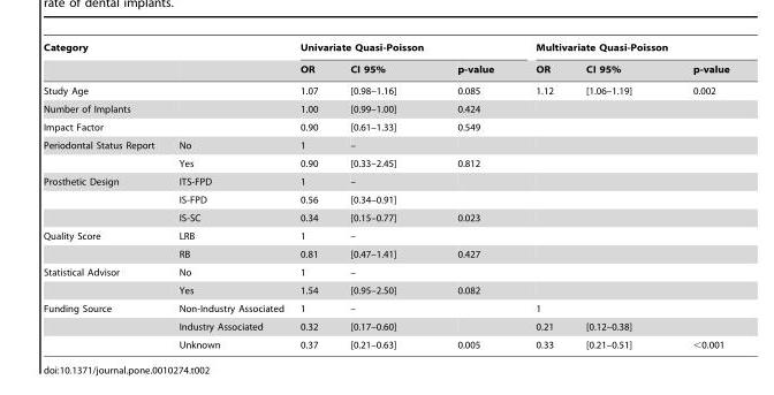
<table><thead><tr><td rowspan="2">Category</td><td rowspan="2"></td><td colspan="3">Univariate Quasi-Poisson</td><td colspan="3">Multivariate Quasi-Poisson</td></tr><tr><td>OR</td><td>CI 95%</td><td>p-value</td><td>OR</td><td>CI 95%</td><td>p-value</td></tr></thead><tbody><tr><td>Study Age</td><td></td><td>1.07</td><td>[0.98–1.16]</td><td>0.085</td><td>1.12</td><td>[1.06–1.19]</td><td>0.002</td></tr><tr><td>Number of Implants</td><td></td><td>1.00</td><td>[0.99–1.00]</td><td>0.424</td><td></td><td></td><td></td></tr><tr><td>Impact Factor</td><td></td><td>0.90</td><td>[0.61–1.33]</td><td>0.549</td><td></td><td></td><td></td></tr><tr><td rowspan="2">Periodontal Status Report</td><td>No</td><td>1</td><td>–</td><td></td><td></td><td></td><td></td></tr><tr><td>Yes</td><td>0.90</td><td>[0.33–2.45]</td><td>0.812</td><td></td><td></td><td></td></tr><tr><td rowspan="3">Prosthetic Design</td><td>ITS-FPD</td><td>1</td><td>–</td><td></td><td></td><td></td><td></td></tr><tr><td>IS-FPD</td><td>0.56</td><td>[0.34–0.91]</td><td></td><td></td><td></td><td></td></tr><tr><td>IS-SC</td><td>0.34</td><td>[0.15–0.77]</td><td>0.023</td><td></td><td></td><td></td></tr><tr><td rowspan="2">Quality Score</td><td>LRB</td><td>1</td><td>–</td><td></td><td></td><td></td><td></td></tr><tr><td>RB</td><td>0.81</td><td>[0.47–1.41]</td><td>0.427</td><td></td><td></td><td></td></tr><tr><td rowspan="2">Statistical Advisor</td><td>No</td><td>1</td><td>–</td><td></td><td></td><td></td><td></td></tr><tr><td>Yes</td><td>1.54</td><td>[0.95–2.50]</td><td>0.082</td><td></td><td></td><td></td></tr><tr><td rowspan="3">Funding Source</td><td>Non-Industry Associated</td><td>1</td><td>–</td><td></td><td>1</td><td></td><td></td></tr><tr><td>Industry Associated</td><td>0.32</td><td>[0.17–0.60]</td><td></td><td>0.21</td><td>[0.12–0.38]</td><td></td></tr><tr><td>Unknown</td><td>0.37</td><td>[0.21–0.63]</td><td>0.005</td><td>0.33</td><td>[0.21–0.51]</td><td>&lt;0.001</td></tr></tbody></table>